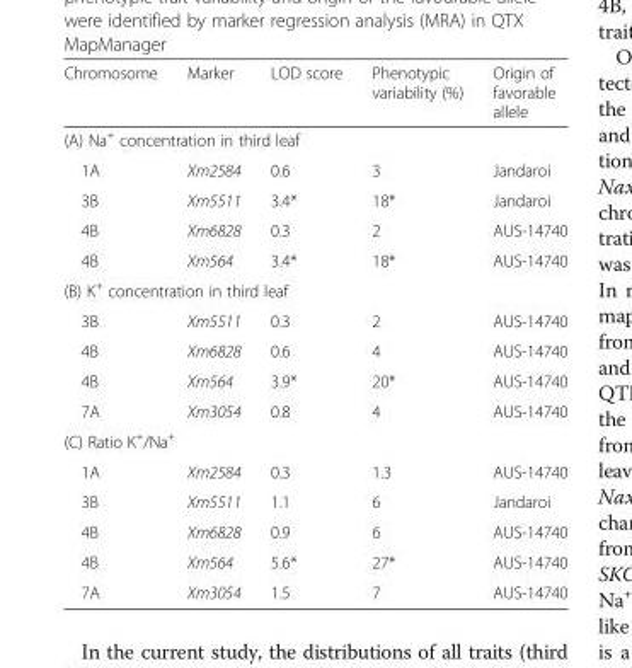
<table><thead><tr><td>Chromosome</td><td>Marker</td><td>LOD score</td><td>Phenotypic variability (%)</td><td>Origin of favorable allele</td></tr></thead><tbody><tr><td colspan="5">(A) Na<sup>+</sup> concentration in third leaf</td></tr><tr><td>1A</td><td>Xm2584</td><td>0.6</td><td>3</td><td>Jandaroi</td></tr><tr><td>3B</td><td>Xm5511</td><td>3.4*</td><td>18*</td><td>Jandaroi</td></tr><tr><td>4B</td><td>Xm6828</td><td>0.3</td><td>2</td><td>AUS-14740</td></tr><tr><td>4B</td><td>Xm564</td><td>3.4*</td><td>18*</td><td>AUS-14740</td></tr><tr><td colspan="5">(B) K<sup>+</sup> concentration in third leaf</td></tr><tr><td>3B</td><td>Xm5511</td><td>0.3</td><td>2</td><td>AUS-14740</td></tr><tr><td>4B</td><td>Xm6828</td><td>0.6</td><td>4</td><td>AUS-14740</td></tr><tr><td>4B</td><td>Xm564</td><td>3.9*</td><td>20*</td><td>AUS-14740</td></tr><tr><td>7A</td><td>Xm3054</td><td>0.8</td><td>4</td><td>AUS-14740</td></tr><tr><td colspan="5">(C) Ratio K<sup>+</sup>/Na<sup>+</sup></td></tr><tr><td>1A</td><td>Xm2584</td><td>0.3</td><td>1.3</td><td>AUS-14740</td></tr><tr><td>3B</td><td>Xm5511</td><td>1.1</td><td>6</td><td>Jandaroi</td></tr><tr><td>4B</td><td>Xm6828</td><td>0.9</td><td>6</td><td>AUS-14740</td></tr><tr><td>4B</td><td>Xm564</td><td>5.6*</td><td>27*</td><td>AUS-14740</td></tr><tr><td>7A</td><td>Xm3054</td><td>1.5</td><td>7</td><td>AUS-14740</td></tr></tbody></table>